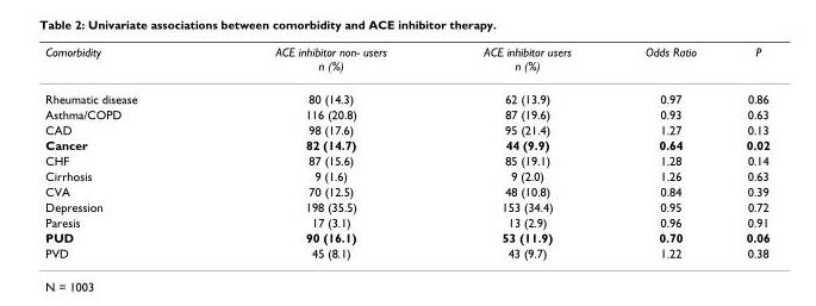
<table><thead><tr><td>Comorbidity</td><td>ACE inhibitor non- users n (%)</td><td>ACE inhibitor users n (%)</td><td>Odds Ratio</td><td>P</td></tr></thead><tbody><tr><td>Rheumatic disease</td><td>80 (14.3)</td><td>62 (13.9)</td><td>0.97</td><td>0.86</td></tr><tr><td>Asthma/COPD</td><td>116 (20.8)</td><td>87 (19.6)</td><td>0.93</td><td>0.63</td></tr><tr><td>CAD</td><td>98 (17.6)</td><td>95 (21.4)</td><td>1.27</td><td>0.13</td></tr><tr><td>Cancer</td><td>82 (14.7)</td><td>44 (9.9)</td><td>0.64</td><td>0.02</td></tr><tr><td>CHF</td><td>87 (15.6)</td><td>85 (19.1)</td><td>1.28</td><td>0.14</td></tr><tr><td>Cirrhosis</td><td>9 (1.6)</td><td>9 (2.0)</td><td>1.26</td><td>0.63</td></tr><tr><td>CVA</td><td>70 (12.5)</td><td>48 (10.8)</td><td>0.84</td><td>0.39</td></tr><tr><td>Depression</td><td>198 (35.5)</td><td>153 (34.4)</td><td>0.95</td><td>0.72</td></tr><tr><td>Paresis</td><td>17 (3.1)</td><td>13 (2.9)</td><td>0.96</td><td>0.91</td></tr><tr><td>PUD</td><td>90 (16.1)</td><td>53 (11.9)</td><td>0.70</td><td>0.06</td></tr><tr><td>PVD</td><td>45 (8.1)</td><td>43 (9.7)</td><td>1.22</td><td>0.38</td></tr></tbody></table>